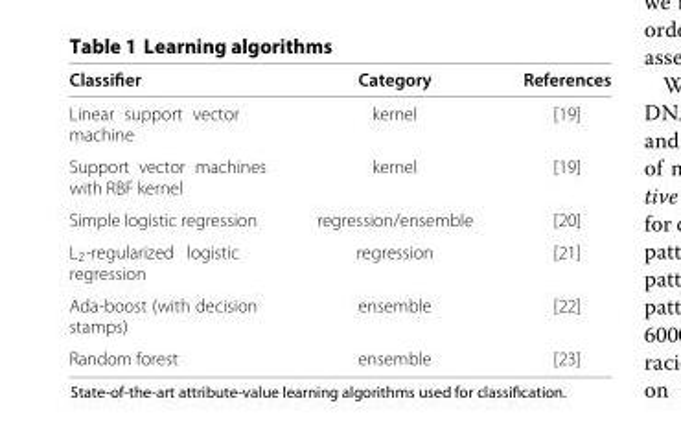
<table><thead><tr><td>Classifier</td><td>Category</td><td>References</td></tr></thead><tbody><tr><td>Linear support vector machine</td><td>kernel</td><td>[19]</td></tr><tr><td>Support vector machines with RBF kernel</td><td>kernel</td><td>[19]</td></tr><tr><td>Simple logistic regression</td><td>regression/ensemble</td><td>[20]</td></tr><tr><td>L<sub>2</sub>-regularized logistic regression</td><td>regression</td><td>[21]</td></tr><tr><td>Ada-boost (with decision stamps)</td><td>ensemble</td><td>[22]</td></tr><tr><td>Random forest</td><td>ensemble</td><td>[23]</td></tr></tbody></table>